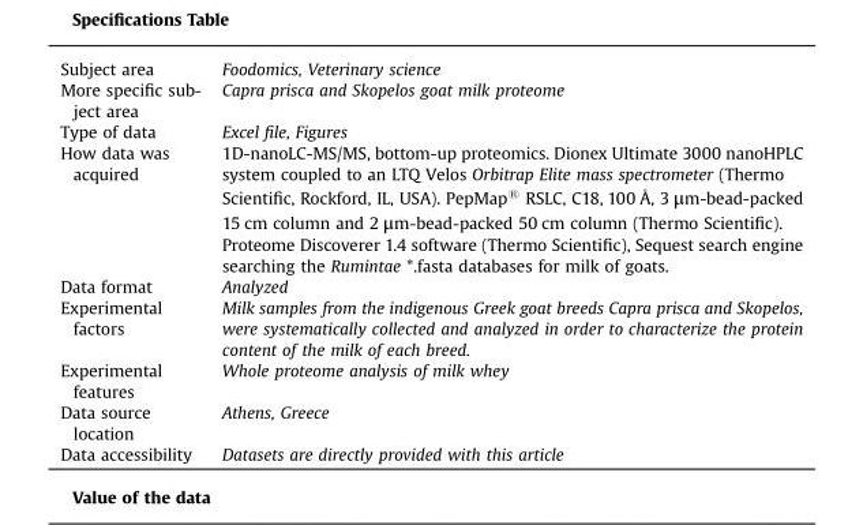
<table><tbody><tr><td>Subject area</td><td>Foodomics, Veterinary science</td></tr><tr><td>More specific sub- ject area</td><td>Capra prisca and Skopelos goat milk proteome</td></tr><tr><td>Type of data</td><td>Excel file, Figures</td></tr><tr><td>How data was acquired</td><td>1D-nanoLC-MS/MS, bottom-up proteomics. Dionex Ultimate 3000 nanoHPLC system coupled to an LTQ Velos Orbitrap Elite mass spectrometer (Thermo Scientific, Rockford, IL, USA). PepMap® RSLC, C18, 100 Å, 3 μm-bead-packed 15 cm column and 2 μm-bead-packed 50 cm column (Thermo Scientific). Proteome Discoverer 1.4 software (Thermo Scientific), Sequest search engine searching the Rumintae *.fasta databases for milk of goats.</td></tr><tr><td>Data format</td><td>Analyzed</td></tr><tr><td>Experimental factors</td><td>Milk samples from the indigenous Greek goat breeds Capra prisca and Skopelos, were systematically collected and analyzed in order to characterize the protein content of the milk of each breed.</td></tr><tr><td>Experimental features</td><td>Whole proteome analysis of milk whey</td></tr><tr><td>Data source location</td><td>Athens, Greece</td></tr><tr><td>Data accessibility</td><td>Datasets are directly provided with this article</td></tr></tbody></table>